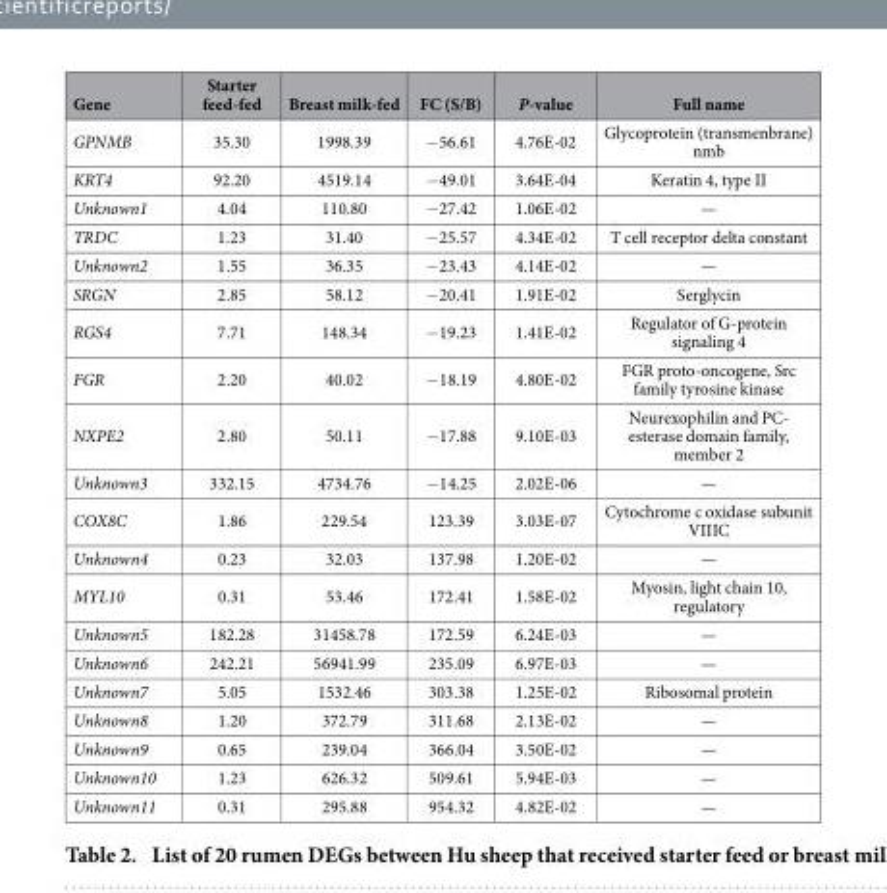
<table><thead><tr><td>Gene</td><td>Starter feed-fed</td><td>Breast milk-fed</td><td>FC (S/B)</td><td>P-value</td><td>Full name</td></tr></thead><tbody><tr><td>GPNMB</td><td>35.30</td><td>1998.39</td><td>− 56.61</td><td>4.76E-02</td><td>Glycoprotein (transmenbrane) nmb</td></tr><tr><td>KRT4</td><td>92.20</td><td>4519.14</td><td>− 49.01</td><td>3.64E-04</td><td>Keratin 4, type II</td></tr><tr><td>Unknown1</td><td>4.04</td><td>110.80</td><td>− 27.42</td><td>1.06E-02</td><td>—</td></tr><tr><td>TRDC</td><td>1.23</td><td>31.40</td><td>− 25.57</td><td>4.34E-02</td><td>T cell receptor delta constant</td></tr><tr><td>Unknown2</td><td>1.55</td><td>36.35</td><td>− 23.43</td><td>4.14E-02</td><td>—</td></tr><tr><td>SRGN</td><td>2.85</td><td>58.12</td><td>− 20.41</td><td>1.91E-02</td><td>Serglycin</td></tr><tr><td>RGS4</td><td>7.71</td><td>148.34</td><td>− 19.23</td><td>1.41E-02</td><td>Regulator of G-protein signaling 4</td></tr><tr><td>FGR</td><td>2.20</td><td>40.02</td><td>− 18.19</td><td>4.80E-02</td><td>FGR proto-oncogene, Src family tyrosine kinase</td></tr><tr><td>NXPE2</td><td>2.80</td><td>50.11</td><td>− 17.88</td><td>9.10E-03</td><td>Neurexophilin and PC- esterase domain family, member 2</td></tr><tr><td>Unknown3</td><td>332.15</td><td>4734.76</td><td>− 14.25</td><td>2.02E-06</td><td>—</td></tr><tr><td>COX8C</td><td>1.86</td><td>229.54</td><td>123.39</td><td>3.03E-07</td><td>Cytochrome c oxidase subunit VIIIC</td></tr><tr><td>Unknown4</td><td>0.23</td><td>32.03</td><td>137.98</td><td>1.20E-02</td><td>—</td></tr><tr><td>MYL10</td><td>0.31</td><td>53.46</td><td>172.41</td><td>1.58E-02</td><td>Myosin, light chain 10, regulatory</td></tr><tr><td>Unknown5</td><td>182.28</td><td>31458.78</td><td>172.59</td><td>6.24E-03</td><td>—</td></tr><tr><td>Unknown6</td><td>242.21</td><td>56941.99</td><td>235.09</td><td>6.97E-03</td><td>—</td></tr><tr><td>Unknown7</td><td>5.05</td><td>1532.46</td><td>303.38</td><td>1.25E-02</td><td>Ribosomal protein</td></tr><tr><td>Unknown8</td><td>1.20</td><td>372.79</td><td>311.68</td><td>2.13E-02</td><td>—</td></tr><tr><td>Unknown9</td><td>0.65</td><td>239.04</td><td>366.04</td><td>3.50E-02</td><td>—</td></tr><tr><td>Unknown10</td><td>1.23</td><td>626.32</td><td>509.61</td><td>5.94E-03</td><td>—</td></tr><tr><td>Unknown11</td><td>0.31</td><td>295.88</td><td>954.32</td><td>4.82E-02</td><td>—</td></tr></tbody></table>